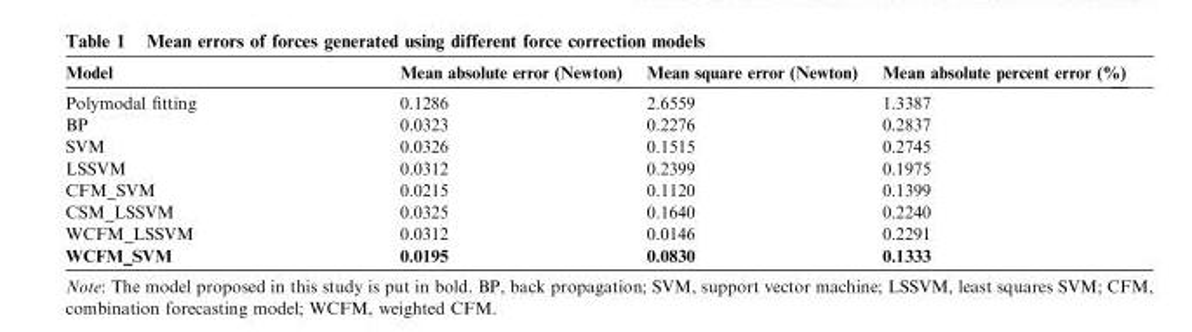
<table><thead><tr><td>Model</td><td>Mean absolute error (Newton)</td><td>Mean square error (Newton)</td><td>Mean absolute percent error (%)</td></tr></thead><tbody><tr><td>Polymodal fitting</td><td>0.1286</td><td>2.6559</td><td>1.3387</td></tr><tr><td>BP</td><td>0.0323</td><td>0.2276</td><td>0.2837</td></tr><tr><td>SVM</td><td>0.0326</td><td>0.1515</td><td>0.2745</td></tr><tr><td>LSSVM</td><td>0.0312</td><td>0.2399</td><td>0.1975</td></tr><tr><td>CFM_SVM</td><td>0.0215</td><td>0.1120</td><td>0.1399</td></tr><tr><td>CSM_LSSVM</td><td>0.0325</td><td>0.1640</td><td>0.2240</td></tr><tr><td>WCFM_LSSVM</td><td>0.0312</td><td>0.0146</td><td>0.2291</td></tr><tr><td>WCFM_SVM</td><td>0.0195</td><td>0.0830</td><td>0.1333</td></tr></tbody></table>